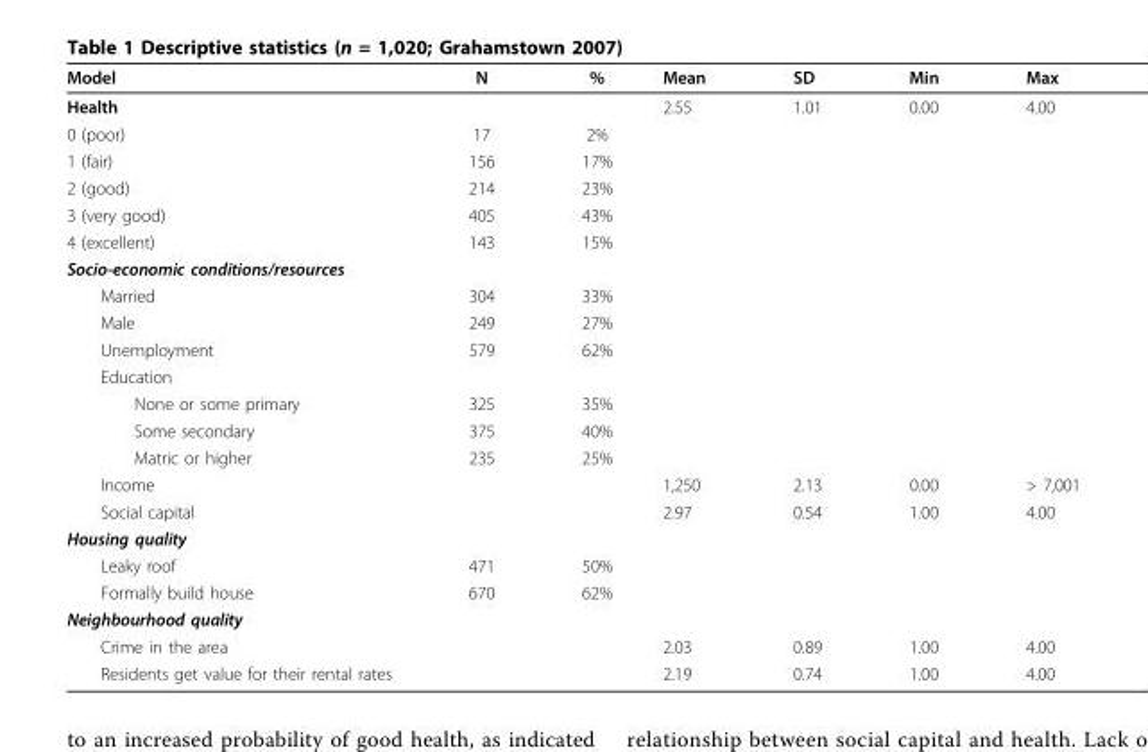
<table><thead><tr><td>Model</td><td>N</td><td>%</td><td>Mean</td><td>SD</td><td>Min</td><td>Max</td></tr></thead><tbody><tr><td>Health</td><td></td><td></td><td>2.55</td><td>1.01</td><td>0.00</td><td>4.00</td></tr><tr><td>0 (poor)</td><td>17</td><td>2%</td><td></td><td></td><td></td><td></td></tr><tr><td>1 (fair)</td><td>156</td><td>17%</td><td></td><td></td><td></td><td></td></tr><tr><td>2 (good)</td><td>214</td><td>23%</td><td></td><td></td><td></td><td></td></tr><tr><td>3 (very good)</td><td>405</td><td>43%</td><td></td><td></td><td></td><td></td></tr><tr><td>4 (excellent)</td><td>143</td><td>15%</td><td></td><td></td><td></td><td></td></tr><tr><td colspan="7">Socio-economic conditions/resources</td></tr><tr><td>Married</td><td>304</td><td>33%</td><td></td><td></td><td></td><td></td></tr><tr><td>Male</td><td>249</td><td>27%</td><td></td><td></td><td></td><td></td></tr><tr><td>Unemployment</td><td>579</td><td>62%</td><td></td><td></td><td></td><td></td></tr><tr><td colspan="7">Education</td></tr><tr><td>None or some primary</td><td>325</td><td>35%</td><td></td><td></td><td></td><td></td></tr><tr><td>Some secondary</td><td>375</td><td>40%</td><td></td><td></td><td></td><td></td></tr><tr><td>Matric or higher</td><td>235</td><td>25%</td><td></td><td></td><td></td><td></td></tr><tr><td>Income</td><td></td><td></td><td>1,250</td><td>2.13</td><td>0.00</td><td>&gt; 7,001</td></tr><tr><td>Social capital</td><td></td><td></td><td>2.97</td><td>0.54</td><td>1.00</td><td>4.00</td></tr><tr><td colspan="7">Housing quality</td></tr><tr><td>Leaky roof</td><td>471</td><td>50%</td><td></td><td></td><td></td><td></td></tr><tr><td>Formally build house</td><td>670</td><td>62%</td><td></td><td></td><td></td><td></td></tr><tr><td colspan="7">Neighbourhood quality</td></tr><tr><td colspan="3">Crime in the area</td><td>2.03</td><td>0.89</td><td>1.00</td><td>4.00</td></tr><tr><td colspan="3">Residents get value for their rental rates</td><td>2.19</td><td>0.74</td><td>1.00</td><td>4.00</td></tr></tbody></table>